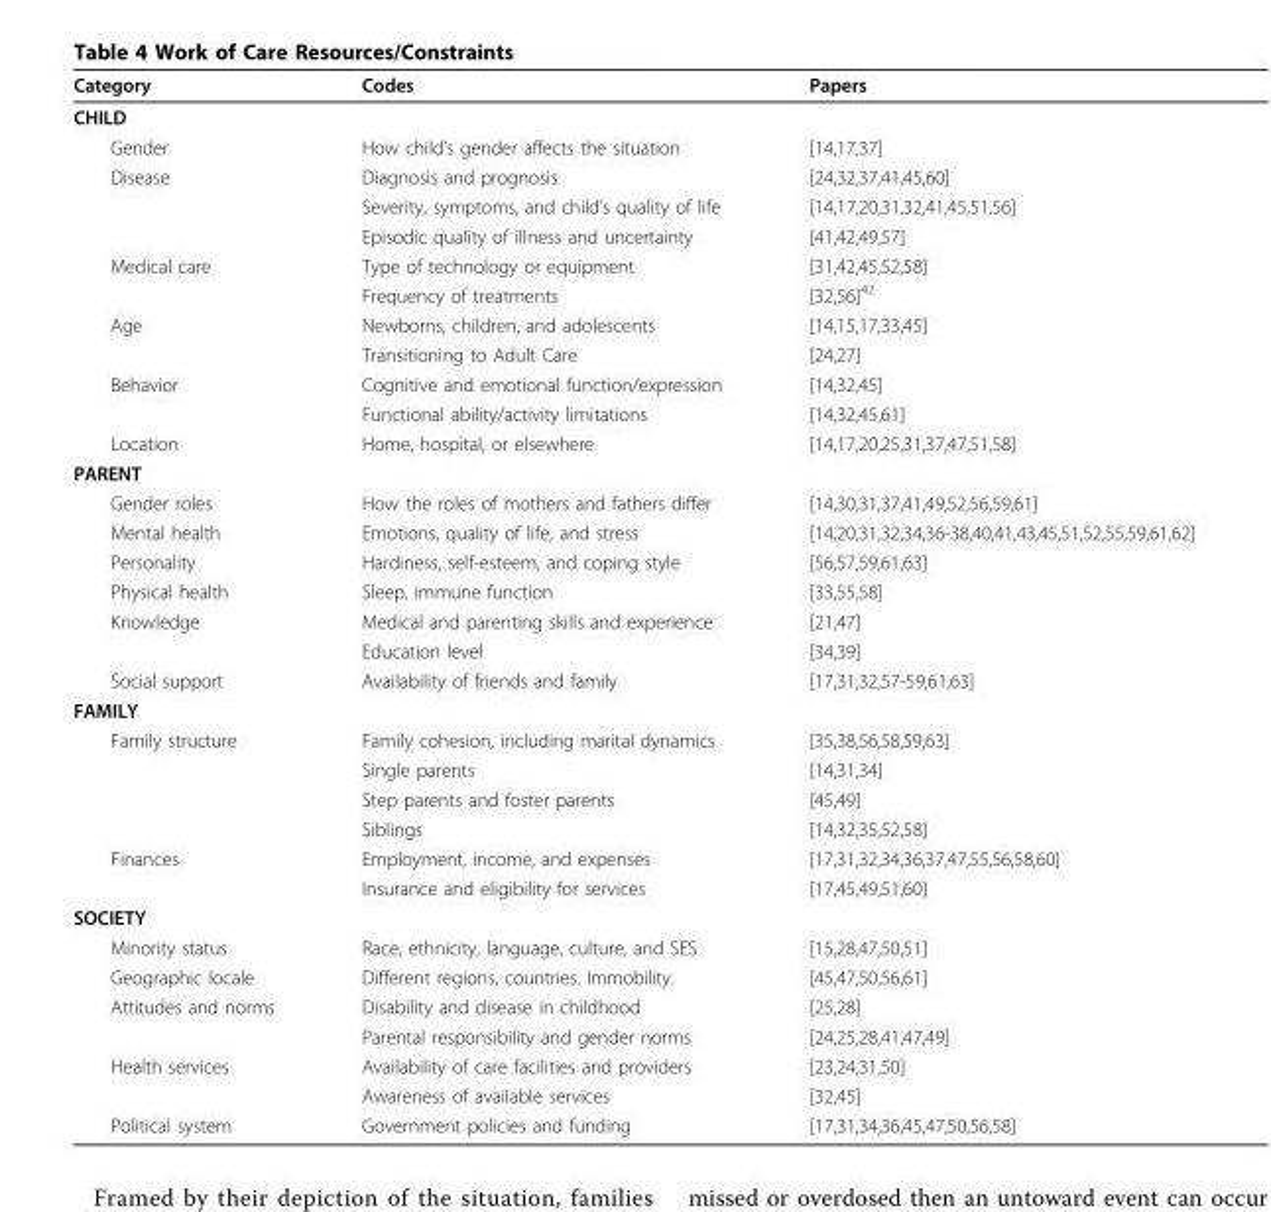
<table><thead><tr><td>Category</td><td>Codes</td><td>Papers</td></tr></thead><tbody><tr><td colspan="3">CHILD</td></tr><tr><td>Gender</td><td>How child’s gender affects the situation</td><td>[14,17,37]</td></tr><tr><td rowspan="3">Disease</td><td>Diagnosis and prognosis</td><td>[24,32,37,41,45,60]</td></tr><tr><td>Severity, symptoms, and child’s quality of life</td><td>[14,17,20,31,32,41,45,51,56]</td></tr><tr><td>Episodic quality of illness and uncertainty</td><td>[41,42,49,57]</td></tr><tr><td rowspan="2">Medical care</td><td>Type of technology or equipment</td><td>[31,42,45,52,58]</td></tr><tr><td>Frequency of treatments</td><td>[32,56]<sup>42</sup></td></tr><tr><td rowspan="2">Age</td><td>Newborns, children, and adolescents</td><td>[14,15,17,33,45]</td></tr><tr><td>Transitioning to Adult Care</td><td>[24,27]</td></tr><tr><td rowspan="2">Behavior</td><td>Cognitive and emotional function/expression</td><td>[14,32,45]</td></tr><tr><td>Functional ability/activity limitations</td><td>[14,32,45,61]</td></tr><tr><td>Location</td><td>Home, hospital, or elsewhere</td><td>[14,17,20,25,31,37,47,51,58]</td></tr><tr><td colspan="3">PARENT</td></tr><tr><td>Gender roles</td><td>How the roles of mothers and fathers differ</td><td>[14,30,31,37,41,49,52,56,59,61]</td></tr><tr><td>Mental health</td><td>Emotions, quality of life, and stress</td><td>[14,20,31,32,34,36-38,40,41,43,45,51,52,55,59,61,62]</td></tr><tr><td>Personality</td><td>Hardiness, self-esteem, and coping style</td><td>[56,57,59,61,63]</td></tr><tr><td>Physical health</td><td>Sleep, immune function</td><td>[33,55,58]</td></tr><tr><td rowspan="2">Knowledge</td><td>Medical and parenting skills and experience</td><td>[21,47]</td></tr><tr><td>Education level</td><td>[34,39]</td></tr><tr><td>Social support</td><td>Availability of friends and family</td><td>[17,31,32,57-59,61,63]</td></tr><tr><td colspan="3">FAMILY</td></tr><tr><td rowspan="4">Family structure</td><td>Family cohesion, including marital dynamics</td><td>[35,38,56,58,59,63]</td></tr><tr><td>Single parents</td><td>[14,31,34]</td></tr><tr><td>Step parents and foster parents</td><td>[45,49]</td></tr><tr><td>Siblings</td><td>[14,32,35,52,58]</td></tr><tr><td rowspan="2">Finances</td><td>Employment, income, and expenses</td><td>[17,31,32,34,36,37,47,55,56,58,60]</td></tr><tr><td>Insurance and eligibility for services</td><td>[17,45,49,51,60]</td></tr><tr><td colspan="3">SOCIETY</td></tr><tr><td>Minority status</td><td>Race, ethnicity, language, culture, and SES</td><td>[15,28,47,50,51]</td></tr><tr><td>Geographic locale</td><td>Different regions, countries. Immobility.</td><td>[45,47,50,56,61]</td></tr><tr><td rowspan="2">Attitudes and norms</td><td>Disability and disease in childhood</td><td>[25,28]</td></tr><tr><td>Parental responsibility and gender norms</td><td>[24,25,28,41,47,49]</td></tr><tr><td rowspan="2">Health services</td><td>Availability of care facilities and providers</td><td>[23,24,31,50]</td></tr><tr><td>Awareness of available services</td><td>[32,45]</td></tr><tr><td>Political system</td><td>Government policies and funding</td><td>[17,31,34,36,45,47,50,56,58]</td></tr></tbody></table>